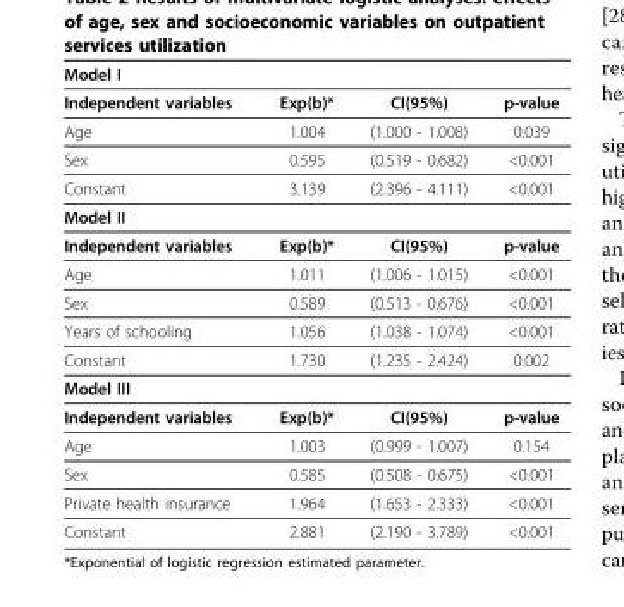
<table><thead><tr><td colspan="4">Model I</td></tr><tr><td>Independent variables</td><td>Exp(b)*</td><td>CI(95%)</td><td>p-value</td></tr></thead><tbody><tr><td>Age</td><td>1.004</td><td>(1.000 - 1.008)</td><td>0.039</td></tr><tr><td>Sex</td><td>0.595</td><td>(0.519 - 0.682)</td><td>&lt;0.001</td></tr><tr><td>Constant</td><td>3.139</td><td>(2.396 - 4.111)</td><td>&lt;0.001</td></tr><tr><td colspan="4">Model II</td></tr><tr><td>Independent variables</td><td>Exp(b)*</td><td>CI(95%)</td><td>p-value</td></tr><tr><td>Age</td><td>1.011</td><td>(1.006 - 1.015)</td><td>&lt;0.001</td></tr><tr><td>Sex</td><td>0.589</td><td>(0.513 - 0.676)</td><td>&lt;0.001</td></tr><tr><td>Years of schooling</td><td>1.056</td><td>(1.038 - 1.074)</td><td>&lt;0.001</td></tr><tr><td>Constant</td><td>1.730</td><td>(1.235 - 2.424)</td><td>0.002</td></tr><tr><td colspan="4">Model III</td></tr><tr><td>Independent variables</td><td>Exp(b)*</td><td>CI(95%)</td><td>p-value</td></tr><tr><td>Age</td><td>1.003</td><td>(0.999 - 1.007)</td><td>0.154</td></tr><tr><td>Sex</td><td>0.585</td><td>(0.508 - 0.675)</td><td>&lt;0.001</td></tr><tr><td>Private health insurance</td><td>1.964</td><td>(1.653 - 2.333)</td><td>&lt;0.001</td></tr><tr><td>Constant</td><td>2.881</td><td>(2.190 - 3.789)</td><td>&lt;0.001</td></tr></tbody></table>